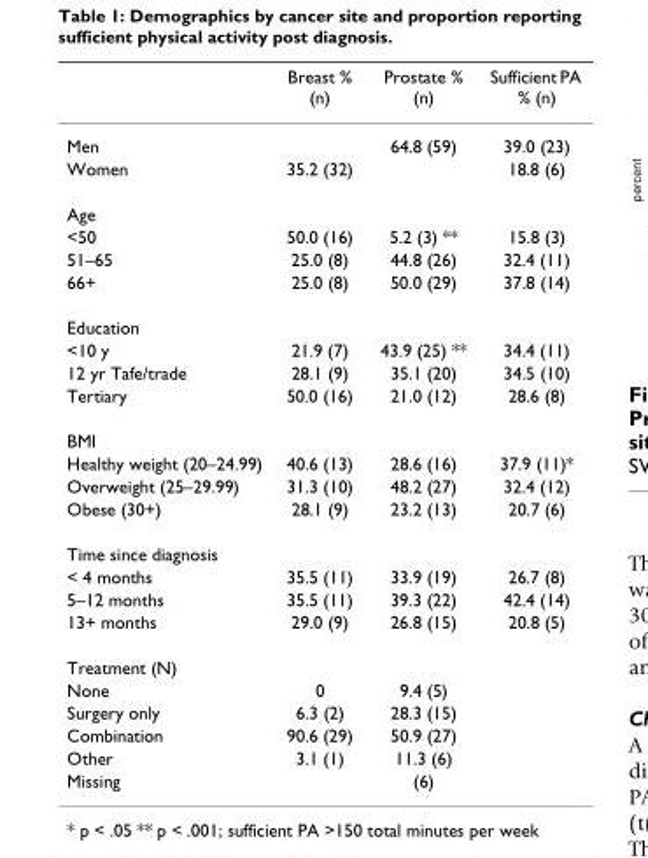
<table><thead><tr><td></td><td>Breast % (n)</td><td>Prostate % (n)</td><td>Sufficient PA % (n)</td></tr></thead><tbody><tr><td>Men</td><td></td><td>64.8 (59)</td><td>39.0 (23)</td></tr><tr><td>Women</td><td>35.2 (32)</td><td></td><td>18.8 (6)</td></tr><tr><td colspan="4">Age</td></tr><tr><td>&lt;50</td><td>50.0 (16)</td><td>5.2 (3) **</td><td>15.8 (3)</td></tr><tr><td>51–65</td><td>25.0 (8)</td><td>44.8 (26)</td><td>32.4 (11)</td></tr><tr><td>66+</td><td>25.0 (8)</td><td>50.0 (29)</td><td>37.8 (14)</td></tr><tr><td colspan="4">Education</td></tr><tr><td>&lt;10 y</td><td>21.9 (7)</td><td>43.9 (25) **</td><td>34.4 (11)</td></tr><tr><td>12 yr Tafe/trade</td><td>28.1 (9)</td><td>35.1 (20)</td><td>34.5 (10)</td></tr><tr><td>Tertiary</td><td>50.0 (16)</td><td>21.0 (12)</td><td>28.6 (8)</td></tr><tr><td colspan="4">BMI</td></tr><tr><td>Healthy weight (20–24.99)</td><td>40.6 (13)</td><td>28.6 (16)</td><td>37.9 (11)*</td></tr><tr><td>Overweight (25–29.99)</td><td>31.3 (10)</td><td>48.2 (27)</td><td>32.4 (12)</td></tr><tr><td>Obese (30+)</td><td>28.1 (9)</td><td>23.2 (13)</td><td>20.7 (6)</td></tr><tr><td colspan="4">Time since diagnosis</td></tr><tr><td>&lt; 4 months</td><td>35.5 (11)</td><td>33.9 (19)</td><td>26.7 (8)</td></tr><tr><td>5–12 months</td><td>35.5 (11)</td><td>39.3 (22)</td><td>42.4 (14)</td></tr><tr><td>13+ months</td><td>29.0 (9)</td><td>26.8 (15)</td><td>20.8 (5)</td></tr><tr><td colspan="4">Treatment (N)</td></tr><tr><td>None</td><td>0</td><td>9.4 (5)</td><td></td></tr><tr><td>Surgery only</td><td>6.3 (2)</td><td>28.3 (15)</td><td></td></tr><tr><td>Combination</td><td>90.6 (29)</td><td>50.9 (27)</td><td></td></tr><tr><td>Other</td><td>3.1 (1)</td><td>11.3 (6)</td><td></td></tr><tr><td>Missing</td><td></td><td>(6)</td><td></td></tr></tbody></table>